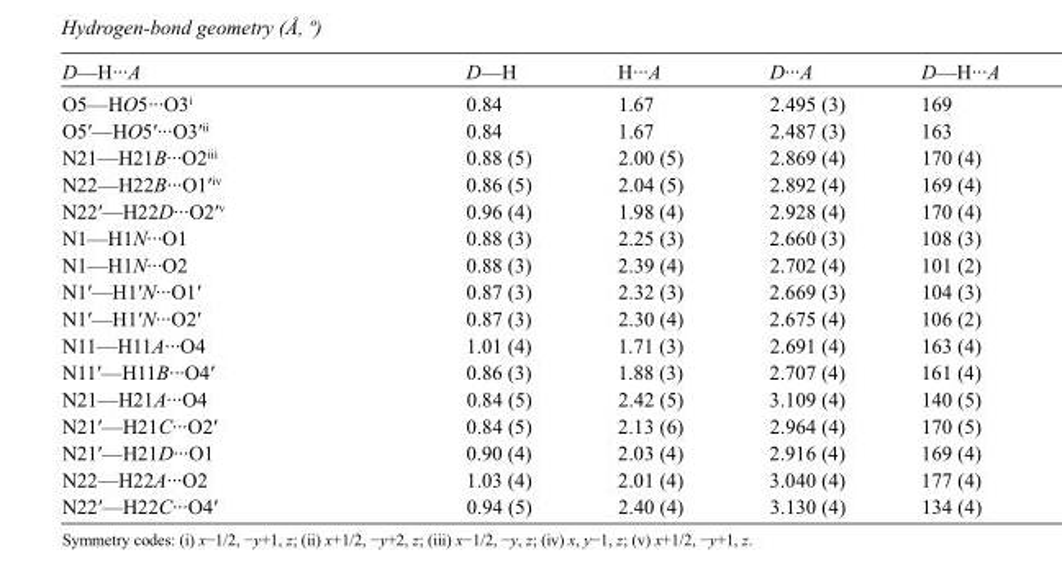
<table><tbody><tr><td>D—H···A</td><td>D—H</td><td>H···A</td><td>D···A</td><td>D—H···A</td></tr><tr><td>O5—HO5···O3<sup>i</sup></td><td>0.84</td><td>1.67</td><td>2.495 (3)</td><td>169</td></tr><tr><td>O5′—HO5′···O3′<sup>ii</sup></td><td>0.84</td><td>1.67</td><td>2.487 (3)</td><td>163</td></tr><tr><td>N21—H21B···O2<sup>iii</sup></td><td>0.88 (5)</td><td>2.00 (5)</td><td>2.869 (4)</td><td>170 (4)</td></tr><tr><td>N22—H22B···O1′<sup>iv</sup></td><td>0.86 (5)</td><td>2.04 (5)</td><td>2.892 (4)</td><td>169 (4)</td></tr><tr><td>N22′—H22D···O2′<sup>v</sup></td><td>0.96 (4)</td><td>1.98 (4)</td><td>2.928 (4)</td><td>170 (4)</td></tr><tr><td>N1—H1N···O1</td><td>0.88 (3)</td><td>2.25 (3)</td><td>2.660 (3)</td><td>108 (3)</td></tr><tr><td>N1—H1N···O2</td><td>0.88 (3)</td><td>2.39 (4)</td><td>2.702 (4)</td><td>101 (2)</td></tr><tr><td>N1′—H1′N···O1′</td><td>0.87 (3)</td><td>2.32 (3)</td><td>2.669 (3)</td><td>104 (3)</td></tr><tr><td>N1′—H1′N···O2′</td><td>0.87 (3)</td><td>2.30 (4)</td><td>2.675 (4)</td><td>106 (2)</td></tr><tr><td>N11—H11A···O4</td><td>1.01 (4)</td><td>1.71 (3)</td><td>2.691 (4)</td><td>163 (4)</td></tr><tr><td>N11′—H11B···O4′</td><td>0.86 (3)</td><td>1.88 (3)</td><td>2.707 (4)</td><td>161 (4)</td></tr><tr><td>N21—H21A···O4</td><td>0.84 (5)</td><td>2.42 (5)</td><td>3.109 (4)</td><td>140 (5)</td></tr><tr><td>N21′—H21C···O2′</td><td>0.84 (5)</td><td>2.13 (6)</td><td>2.964 (4)</td><td>170 (5)</td></tr><tr><td>N21′—H21D···O1</td><td>0.90 (4)</td><td>2.03 (4)</td><td>2.916 (4)</td><td>169 (4)</td></tr><tr><td>N22—H22A···O2</td><td>1.03 (4)</td><td>2.01 (4)</td><td>3.040 (4)</td><td>177 (4)</td></tr><tr><td>N22′—H22C···O4′</td><td>0.94 (5)</td><td>2.40 (4)</td><td>3.130 (4)</td><td>134 (4)</td></tr></tbody></table>